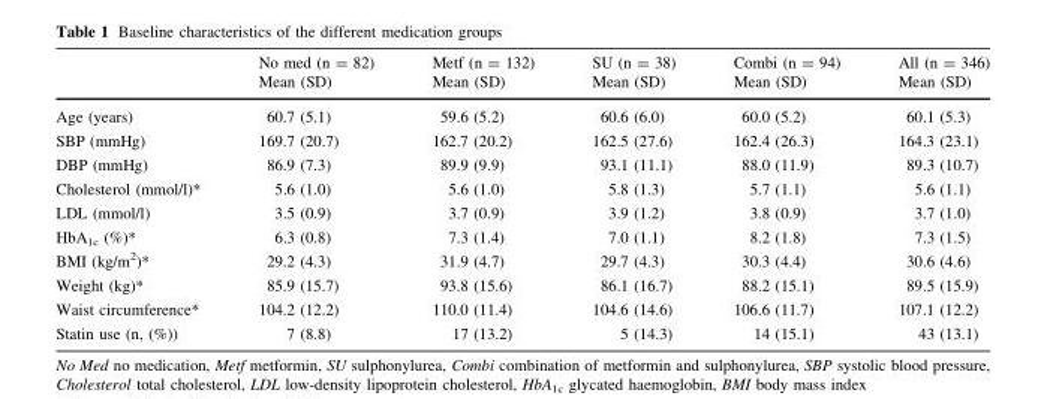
<table><thead><tr><td rowspan="2"></td><td rowspan="2">No med (n = 82) Mean (SD)</td><td rowspan="2">Metf (n = 132) Mean (SD)</td><td rowspan="2">SU (n = 38) Mean (SD)</td><td rowspan="2">Combi (n = 94) Mean (SD)</td><td rowspan="2">All (n = 346) Mean (SD)</td></tr><tr></tr></thead><tbody><tr><td>Age (years)</td><td>60.7 (5.1)</td><td>59.6 (5.2)</td><td>60.6 (6.0)</td><td>60.0 (5.2)</td><td>60.1 (5.3)</td></tr><tr><td>SBP (mmHg)</td><td>169.7 (20.7)</td><td>162.7 (20.2)</td><td>162.5 (27.6)</td><td>162.4 (26.3)</td><td>164.3 (23.1)</td></tr><tr><td>DBP (mmHg)</td><td>86.9 (7.3)</td><td>89.9 (9.9)</td><td>93.1 (11.1)</td><td>88.0 (11.9)</td><td>89.3 (10.7)</td></tr><tr><td>Cholesterol (mmol/l)*</td><td>5.6 (1.0)</td><td>5.6 (1.0)</td><td>5.8 (1.3)</td><td>5.7 (1.1)</td><td>5.6 (1.1)</td></tr><tr><td>LDL (mmol/l)</td><td>3.5 (0.9)</td><td>3.7 (0.9)</td><td>3.9 (1.2)</td><td>3.8 (0.9)</td><td>3.7 (1.0)</td></tr><tr><td>HbA<sub>1c</sub> (%)*</td><td>6.3 (0.8)</td><td>7.3 (1.4)</td><td>7.0 (1.1)</td><td>8.2 (1.8)</td><td>7.3 (1.5)</td></tr><tr><td>BMI (kg/m<sup>2</sup>)*</td><td>29.2 (4.3)</td><td>31.9 (4.7)</td><td>29.7 (4.3)</td><td>30.3 (4.4)</td><td>30.6 (4.6)</td></tr><tr><td>Weight (kg)*</td><td>85.9 (15.7)</td><td>93.8 (15.6)</td><td>86.1 (16.7)</td><td>88.2 (15.1)</td><td>89.5 (15.9)</td></tr><tr><td>Waist circumference*</td><td>104.2 (12.2)</td><td>110.0 (11.4)</td><td>104.6 (14.6)</td><td>106.6 (11.7)</td><td>107.1 (12.2)</td></tr><tr><td>Statin use (n, (%))</td><td>7 (8.8)</td><td>17 (13.2)</td><td>5 (14.3)</td><td>14 (15.1)</td><td>43 (13.1)</td></tr></tbody></table>